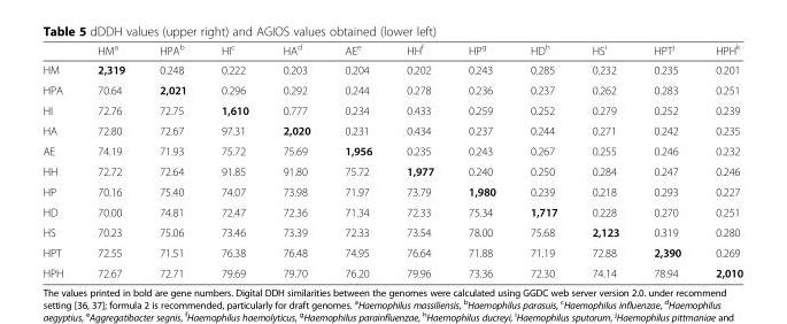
<table><thead><tr><td></td><td>HMa</td><td>HPAb</td><td>HIc</td><td>HAd</td><td>AEe</td><td>HHf</td><td>HPg</td><td>HDh</td><td>HSi</td><td>HPTj</td><td>HPHk</td></tr></thead><tbody><tr><td>HM</td><td>2,319</td><td>0.248</td><td>0.222</td><td>0.203</td><td>0.204</td><td>0.202</td><td>0.243</td><td>0.285</td><td>0.232</td><td>0.235</td><td>0.201</td></tr><tr><td>HPA</td><td>70.64</td><td>2,021</td><td>0.296</td><td>0.292</td><td>0.244</td><td>0.278</td><td>0.236</td><td>0.237</td><td>0.262</td><td>0.283</td><td>0.251</td></tr><tr><td>HI</td><td>72.76</td><td>72.75</td><td>1,610</td><td>0.777</td><td>0.234</td><td>0.433</td><td>0.259</td><td>0.252</td><td>0.279</td><td>0.252</td><td>0.239</td></tr><tr><td>HA</td><td>72.80</td><td>72.67</td><td>97.31</td><td>2,020</td><td>0.231</td><td>0.434</td><td>0.237</td><td>0.244</td><td>0.271</td><td>0.242</td><td>0.235</td></tr><tr><td>AE</td><td>74.19</td><td>71.93</td><td>75.72</td><td>75.69</td><td>1,956</td><td>0.235</td><td>0.243</td><td>0.267</td><td>0.255</td><td>0.246</td><td>0.232</td></tr><tr><td>HH</td><td>72.72</td><td>72.64</td><td>91.85</td><td>91.80</td><td>75.72</td><td>1,977</td><td>0.240</td><td>0.250</td><td>0.284</td><td>0.247</td><td>0.246</td></tr><tr><td>HP</td><td>70.16</td><td>75.40</td><td>74.07</td><td>73.98</td><td>71.97</td><td>73.79</td><td>1,980</td><td>0.239</td><td>0.218</td><td>0.293</td><td>0.227</td></tr><tr><td>HD</td><td>70.00</td><td>74.81</td><td>72.47</td><td>72.36</td><td>71.34</td><td>72.33</td><td>75.34</td><td>1,717</td><td>0.228</td><td>0.270</td><td>0.251</td></tr><tr><td>HS</td><td>70.23</td><td>75.06</td><td>73.46</td><td>73.39</td><td>72.33</td><td>73.54</td><td>78.00</td><td>75.68</td><td>2,123</td><td>0.319</td><td>0.280</td></tr><tr><td>HPT</td><td>72.55</td><td>71.51</td><td>76.38</td><td>76.48</td><td>74.95</td><td>76.64</td><td>71.88</td><td>71.19</td><td>72.88</td><td>2,390</td><td>0.269</td></tr><tr><td>HPH</td><td>72.67</td><td>72.71</td><td>79.69</td><td>79.70</td><td>76.20</td><td>79.96</td><td>73.36</td><td>72.30</td><td>74.14</td><td>78.94</td><td>2,010</td></tr></tbody></table>